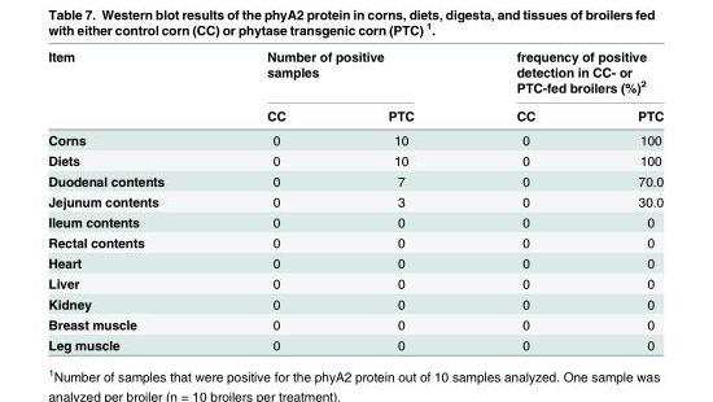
<table><thead><tr><td rowspan="2">Item</td><td colspan="2">Number of positive samples</td><td colspan="2">frequency of positive detection in CC- or PTC-fed broilers (%)<sup>2</sup></td></tr><tr><td>CC</td><td>PTC</td><td>CC</td><td>PTC</td></tr></thead><tbody><tr><td>Corns</td><td>0</td><td>10</td><td>0</td><td>100</td></tr><tr><td>Diets</td><td>0</td><td>10</td><td>0</td><td>100</td></tr><tr><td>Duodenal contents</td><td>0</td><td>7</td><td>0</td><td>70.0</td></tr><tr><td>Jejunum contents</td><td>0</td><td>3</td><td>0</td><td>30.0</td></tr><tr><td>Ileum contents</td><td>0</td><td>0</td><td>0</td><td>0</td></tr><tr><td>Rectal contents</td><td>0</td><td>0</td><td>0</td><td>0</td></tr><tr><td>Heart</td><td>0</td><td>0</td><td>0</td><td>0</td></tr><tr><td>Liver</td><td>0</td><td>0</td><td>0</td><td>0</td></tr><tr><td>Kidney</td><td>0</td><td>0</td><td>0</td><td>0</td></tr><tr><td>Breast muscle</td><td>0</td><td>0</td><td>0</td><td>0</td></tr><tr><td>Leg muscle</td><td>0</td><td>0</td><td>0</td><td>0</td></tr></tbody></table>